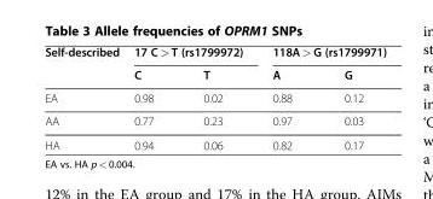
<table><thead><tr><td rowspan="2">Self-described</td><td colspan="2">17 C &gt; T (rs1799972)</td><td colspan="2">118A &gt; G (rs1799971)</td></tr><tr><td>C</td><td>T</td><td>A</td><td>G</td></tr></thead><tbody><tr><td>EA</td><td>0.98</td><td>0.02</td><td>0.88</td><td>0.12</td></tr><tr><td>AA</td><td>0.77</td><td>0.23</td><td>0.97</td><td>0.03</td></tr><tr><td>HA</td><td>0.94</td><td>0.06</td><td>0.82</td><td>0.17</td></tr></tbody></table>